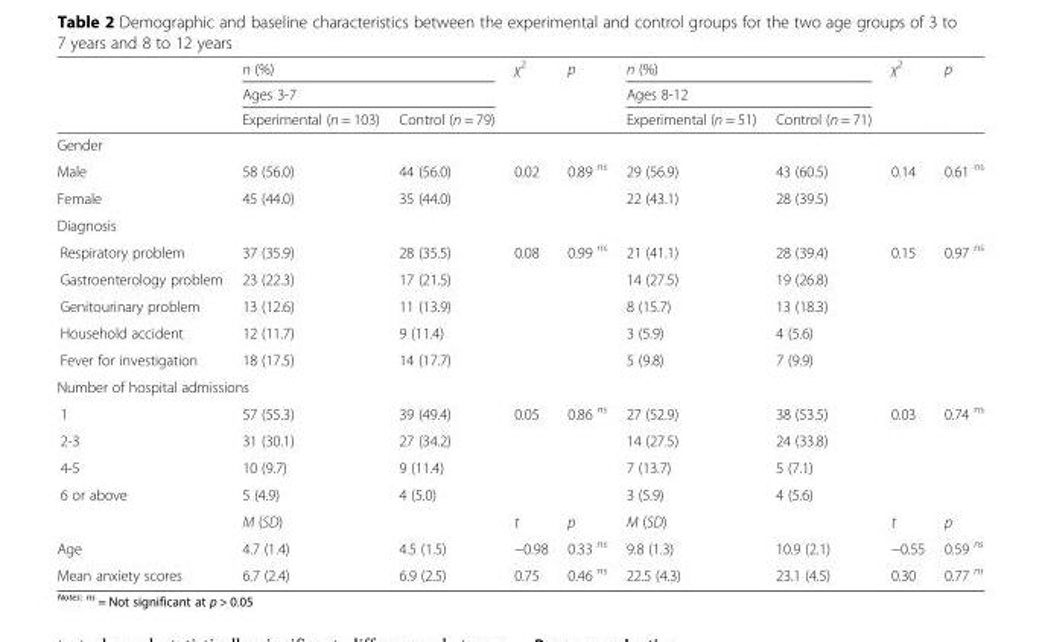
<table><thead><tr><td rowspan="3"></td><td rowspan="2" colspan="2">n (%) Ages 3-7</td><td rowspan="3">χ<sup>2</sup></td><td rowspan="3">p</td><td rowspan="2" colspan="2">n (%) Ages 8-12</td><td rowspan="3">χ<sup>2</sup></td><td rowspan="3">p</td></tr><tr></tr><tr><td>Experimental (n = 103)</td><td>Control (n = 79)</td><td>Experimental (n = 51)</td><td>Control (n = 71)</td></tr></thead><tbody><tr><td colspan="9">Gender</td></tr><tr><td>Male</td><td>58 (56.0)</td><td>44 (56.0)</td><td>0.02</td><td>0.89 <sup>ns</sup></td><td>29 (56.9)</td><td>43 (60.5)</td><td>0.14</td><td>0.61 <sup>ns</sup></td></tr><tr><td>Female</td><td>45 (44.0)</td><td>35 (44.0)</td><td></td><td></td><td>22 (43.1)</td><td>28 (39.5)</td><td></td><td></td></tr><tr><td colspan="9">Diagnosis</td></tr><tr><td>Respiratory problem</td><td>37 (35.9)</td><td>28 (35.5)</td><td>0.08</td><td>0.99 <sup>ns</sup></td><td>21 (41.1)</td><td>28 (39.4)</td><td>0.15</td><td>0.97 <sup>ns</sup></td></tr><tr><td>Gastroenterology problem</td><td>23 (22.3)</td><td>17 (21.5)</td><td></td><td></td><td>14 (27.5)</td><td>19 (26.8)</td><td></td><td></td></tr><tr><td>Genitourinary problem</td><td>13 (12.6)</td><td>11 (13.9)</td><td></td><td></td><td>8 (15.7)</td><td>13 (18.3)</td><td></td><td></td></tr><tr><td>Household accident</td><td>12 (11.7)</td><td>9 (11.4)</td><td></td><td></td><td>3 (5.9)</td><td>4 (5.6)</td><td></td><td></td></tr><tr><td>Fever for investigation</td><td>18 (17.5)</td><td>14 (17.7)</td><td></td><td></td><td>5 (9.8)</td><td>7 (9.9)</td><td></td><td></td></tr><tr><td colspan="9">Number of hospital admissions</td></tr><tr><td>1</td><td>57 (55.3)</td><td>39 (49.4)</td><td>0.05</td><td>0.86 <sup>ns</sup></td><td>27 (52.9)</td><td>38 (53.5)</td><td>0.03</td><td>0.74 <sup>ns</sup></td></tr><tr><td>2-3</td><td>31 (30.1)</td><td>27 (34.2)</td><td></td><td></td><td>14 (27.5)</td><td>24 (33.8)</td><td></td><td></td></tr><tr><td>4-5</td><td>10 (9.7)</td><td>9 (11.4)</td><td></td><td></td><td>7 (13.7)</td><td>5 (7.1)</td><td></td><td></td></tr><tr><td rowspan="2">6 or above</td><td>5 (4.9)</td><td>4 (5.0)</td><td></td><td></td><td>3 (5.9)</td><td>4 (5.6)</td><td></td><td></td></tr><tr><td colspan="2">M (SD)</td><td>t</td><td>p</td><td colspan="2">M (SD)</td><td>t</td><td>p</td></tr><tr><td>Age</td><td>4.7 (1.4)</td><td>4.5 (1.5)</td><td>−0.98</td><td>0.33 <sup>ns</sup></td><td>9.8 (1.3)</td><td>10.9 (2.1)</td><td>−0.55</td><td>0.59 <sup>ns</sup></td></tr><tr><td>Mean anxiety scores</td><td>6.7 (2.4)</td><td>6.9 (2.5)</td><td>0.75</td><td>0.46 <sup>ns</sup></td><td>22.5 (4.3)</td><td>23.1 (4.5)</td><td>0.30</td><td>0.77 <sup>ns</sup></td></tr></tbody></table>